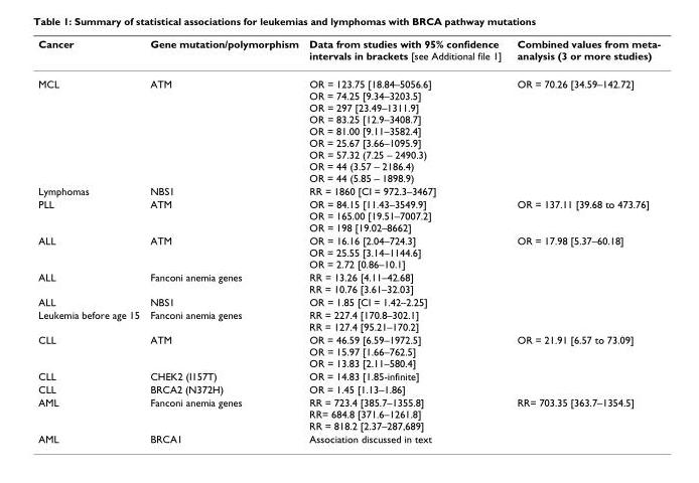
<table><thead><tr><td>Cancer</td><td>Gene mutation/polymorphism</td><td>Data from studies with 95% confidence intervals in brackets [see Additional file 1]</td><td>Combined values from meta- analysis (3 or more studies)</td></tr></thead><tbody><tr><td>MCL</td><td>ATM</td><td>OR = 123.75 [18.84–5056.6] OR = 74.25 [9.34–3203.5] OR = 297 [23.49–1311.9] OR = 83.25 [12.9–3408.7] OR = 81.00 [9.11–3582.4] OR = 25.67 [3.66–1095.9] OR = 57.32 (7.25 – 2490.3) OR = 44 (3.57 – 2186.4) OR = 44 (5.85 – 1898.9)</td><td>OR = 70.26 [34.59–142.72]</td></tr><tr><td>Lymphomas</td><td>NBS1</td><td>RR = 1860 [CI = 972.3–3467]</td><td></td></tr><tr><td>PLL</td><td>ATM</td><td>OR = 84.15 [11.43–3549.9] OR = 165.00 [19.51–7007.2] OR = 198 [19.02–8662]</td><td>OR = 137.11 [39.68 to 473.76]</td></tr><tr><td>ALL</td><td>ATM</td><td>OR = 16.16 [2.04–724.3] OR = 25.55 [3.14–1144.6] OR = 2.72 [0.86–10.1]</td><td>OR = 17.98 [5.37–60.18]</td></tr><tr><td>ALL</td><td>Fanconi anemia genes</td><td>RR = 13.26 [4.11–42.68] RR = 10.76 [3.61–32.03]</td><td></td></tr><tr><td>ALL</td><td>NBS1</td><td>OR = 1.85 [CI = 1.42–2.25]</td><td></td></tr><tr><td>Leukemia before age 15</td><td>Fanconi anemia genes</td><td>RR = 227.4 [170.8–302.1] RR = 127.4 [95.21–170.2]</td><td></td></tr><tr><td>CLL</td><td>ATM</td><td>OR = 46.59 [6.59–1972.5] OR = 15.97 [1.66–762.5] OR = 13.83 [2.11–580.4]</td><td>OR = 21.91 [6.57 to 73.09]</td></tr><tr><td>CLL</td><td>CHEK2 (I157T)</td><td>OR = 14.83 [1.85-infinite]</td><td></td></tr><tr><td>CLL</td><td>BRCA2 (N372H)</td><td>OR = 1.45 [1.13–1.86]</td><td></td></tr><tr><td>AML</td><td>Fanconi anemia genes</td><td>RR = 723.4 [385.7–1355.8] RR= 684.8 [371.6–1261.8] RR = 818.2 [2.37–287,689]</td><td>RR= 703.35 [363.7–1354.5]</td></tr><tr><td>AML</td><td>BRCA1</td><td>Association discussed in text</td><td></td></tr></tbody></table>